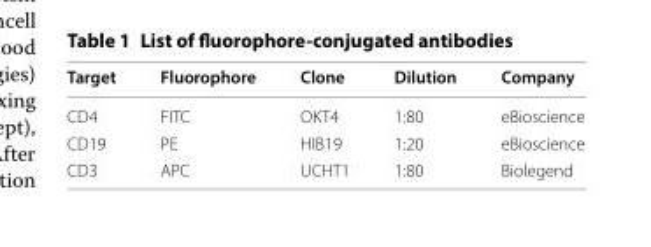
<table><thead><tr><td>Target</td><td>Fluorophore</td><td>Clone</td><td>Dilution</td><td>Company</td></tr></thead><tbody><tr><td>CD4</td><td>FITC</td><td>OKT4</td><td>1:80</td><td>eBioscience</td></tr><tr><td>CD19</td><td>PE</td><td>HIB19</td><td>1:20</td><td>eBioscience</td></tr><tr><td>CD3</td><td>APC</td><td>UCHT1</td><td>1:80</td><td>Biolegend</td></tr></tbody></table>